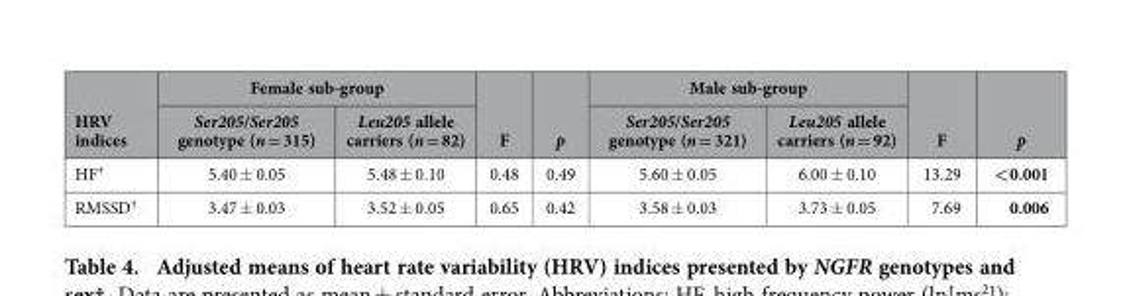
<table><thead><tr><td rowspan="2">HRV indices</td><td colspan="2">Female sub-group</td><td rowspan="2">F</td><td rowspan="2">p</td><td colspan="2">Male sub-group</td><td rowspan="2">F</td><td rowspan="2">p</td></tr><tr><td>Ser205/Ser205 genotype (n = 315)</td><td>Leu205 allele carriers (n = 82)</td><td>Ser205/Ser205 genotype (n = 321)</td><td>Leu205 allele carriers (n = 92)</td></tr></thead><tbody><tr><td>HF†</td><td>5.40 ± 0.05</td><td>5.48 ± 0.10</td><td>0.48</td><td>0.49</td><td>5.60 ± 0.05</td><td>6.00 ± 0.10</td><td>13.29</td><td>&lt;0.001</td></tr><tr><td>RMSSD†</td><td>3.47 ± 0.03</td><td>3.52 ± 0.05</td><td>0.65</td><td>0.42</td><td>3.58 ± 0.03</td><td>3.73 ± 0.05</td><td>7.69</td><td>0.006</td></tr></tbody></table>